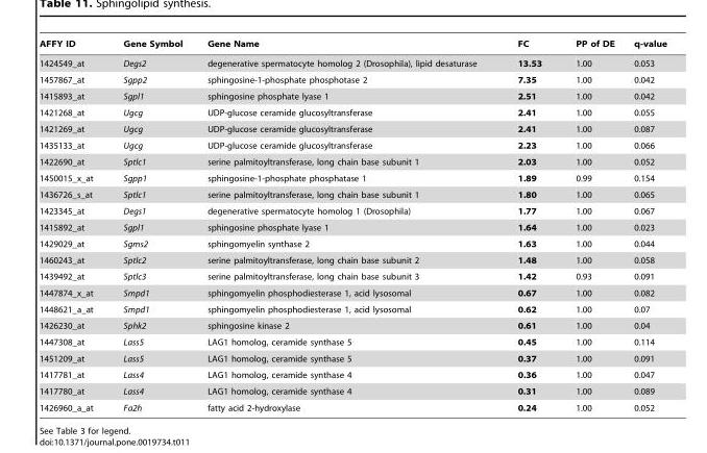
<table><thead><tr><td>AFFY ID</td><td>Gene Symbol</td><td>Gene Name</td><td>FC</td><td>PP of DE</td><td>q-value</td></tr></thead><tbody><tr><td>1424549_at</td><td>Degs2</td><td>degenerative spermatocyte homolog 2 (Drosophila), lipid desaturase</td><td>13.53</td><td>1.00</td><td>0.053</td></tr><tr><td>1457867_at</td><td>Sgpp2</td><td>sphingosine-1-phosphate phosphotase 2</td><td>7.35</td><td>1.00</td><td>0.042</td></tr><tr><td>1415893_at</td><td>Sgpl1</td><td>sphingosine phosphate lyase 1</td><td>2.51</td><td>1.00</td><td>0.042</td></tr><tr><td>1421268_at</td><td>Ugcg</td><td>UDP-glucose ceramide glucosyltransferase</td><td>2.41</td><td>1.00</td><td>0.055</td></tr><tr><td>1421269_at</td><td>Ugcg</td><td>UDP-glucose ceramide glucosyltransferase</td><td>2.41</td><td>1.00</td><td>0.087</td></tr><tr><td>1435133_at</td><td>Ugcg</td><td>UDP-glucose ceramide glucosyltransferase</td><td>2.23</td><td>1.00</td><td>0.066</td></tr><tr><td>1422690_at</td><td>Sptlc1</td><td>serine palmitoyltransferase, long chain base subunit 1</td><td>2.03</td><td>1.00</td><td>0.052</td></tr><tr><td>1450015_x_at</td><td>Sgpp1</td><td>sphingosine-1-phosphate phosphatase 1</td><td>1.89</td><td>0.99</td><td>0.154</td></tr><tr><td>1436726_s_at</td><td>Sptlc1</td><td>serine palmitoyltransferase, long chain base subunit 1</td><td>1.80</td><td>1.00</td><td>0.065</td></tr><tr><td>1423345_at</td><td>Degs1</td><td>degenerative spermatocyte homolog 1 (Drosophila)</td><td>1.77</td><td>1.00</td><td>0.067</td></tr><tr><td>1415892_at</td><td>Sgpl1</td><td>sphingosine phosphate lyase 1</td><td>1.64</td><td>1.00</td><td>0.023</td></tr><tr><td>1429029_at</td><td>Sgms2</td><td>sphingomyelin synthase 2</td><td>1.63</td><td>1.00</td><td>0.044</td></tr><tr><td>1460243_at</td><td>Sptlc2</td><td>serine palmitoyltransferase, long chain base subunit 2</td><td>1.48</td><td>1.00</td><td>0.058</td></tr><tr><td>1439492_at</td><td>Sptlc3</td><td>serine palmitoyltransferase, long chain base subunit 3</td><td>1.42</td><td>0.93</td><td>0.091</td></tr><tr><td>1447874_x_at</td><td>Smpd1</td><td>sphingomyelin phosphodiesterase 1, acid lysosomal</td><td>0.67</td><td>1.00</td><td>0.082</td></tr><tr><td>1448621_a_at</td><td>Smpd1</td><td>sphingomyelin phosphodiesterase 1, acid lysosomal</td><td>0.62</td><td>1.00</td><td>0.07</td></tr><tr><td>1426230_at</td><td>Sphk2</td><td>sphingosine kinase 2</td><td>0.61</td><td>1.00</td><td>0.04</td></tr><tr><td>1447308_at</td><td>Lass5</td><td>LAG1 homolog, ceramide synthase 5</td><td>0.45</td><td>1.00</td><td>0.114</td></tr><tr><td>1451209_at</td><td>Lass5</td><td>LAG1 homolog, ceramide synthase 5</td><td>0.37</td><td>1.00</td><td>0.091</td></tr><tr><td>1417781_at</td><td>Lass4</td><td>LAG1 homolog, ceramide synthase 4</td><td>0.36</td><td>1.00</td><td>0.047</td></tr><tr><td>1417780_at</td><td>Lass4</td><td>LAG1 homolog, ceramide synthase 4</td><td>0.31</td><td>1.00</td><td>0.089</td></tr><tr><td>1426960_a_at</td><td>Fa2h</td><td>fatty acid 2-hydroxylase</td><td>0.24</td><td>1.00</td><td>0.052</td></tr></tbody></table>